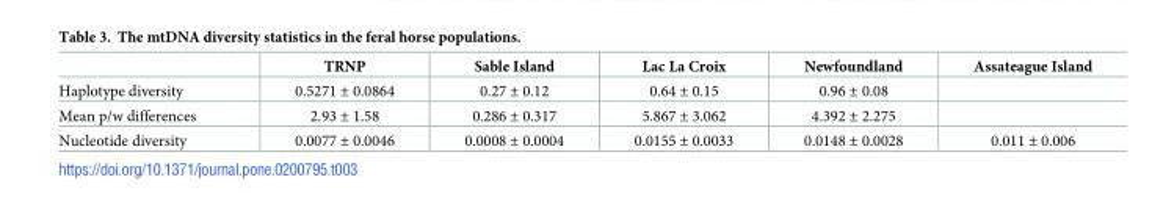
<table><thead><tr><td></td><td>TRNP</td><td>Sable Island</td><td>Lac La Croix</td><td>Newfoundland</td><td>Assateague Island</td></tr></thead><tbody><tr><td>Haplotype diversity</td><td>0.5271 ± 0.0864</td><td>0.27 ± 0.12</td><td>0.64 ± 0.15</td><td>0.96 ± 0.08</td><td></td></tr><tr><td>Mean p/w differences</td><td>2.93 ± 1.58</td><td>0.286 ± 0.317</td><td>5.867 ± 3.062</td><td>4.392 ± 2.275</td><td></td></tr><tr><td>Nucleotide diversity</td><td>0.0077 ± 0.0046</td><td>0.0008 ± 0.0004</td><td>0.0155 ± 0.0033</td><td>0.0148 ± 0.0028</td><td>0.011 ± 0.006</td></tr></tbody></table>